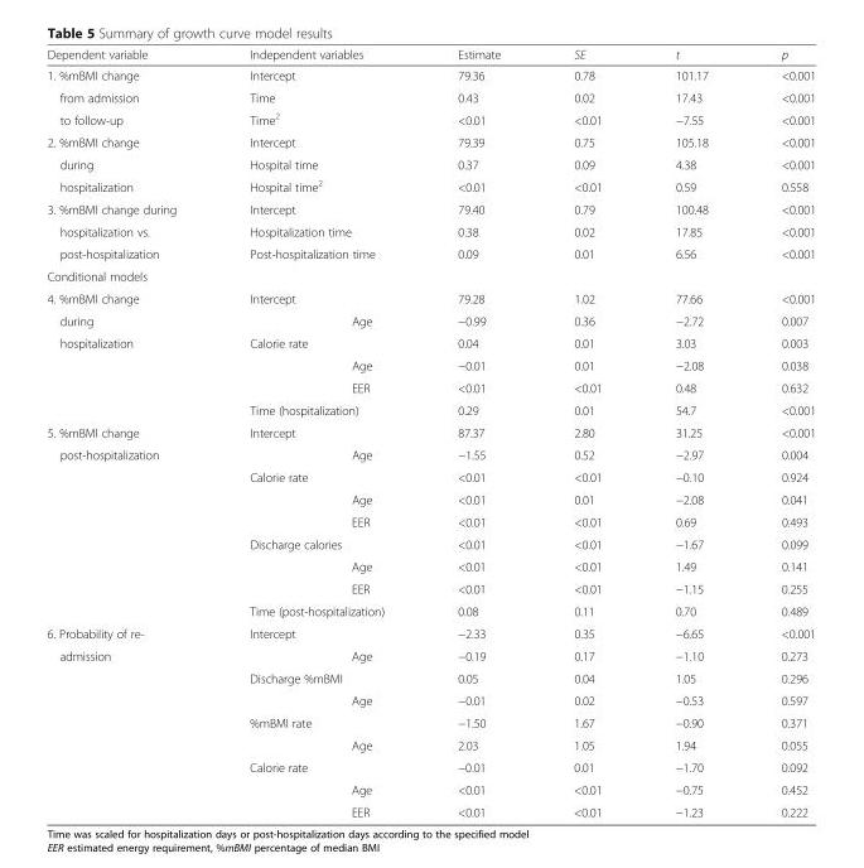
<table><thead><tr><td>Dependent variable</td><td>Independent variables</td><td>Estimate</td><td>SE</td><td>t</td><td>p</td></tr></thead><tbody><tr><td>1. %mBMI change</td><td>Intercept</td><td>79.36</td><td>0.78</td><td>101.17</td><td>&lt;0.001</td></tr><tr><td>from admission</td><td>Time</td><td>0.43</td><td>0.02</td><td>17.43</td><td>&lt;0.001</td></tr><tr><td>to follow-up</td><td>Time<sup>2</sup></td><td>&lt;0.01</td><td>&lt;0.01</td><td>−7.55</td><td>&lt;0.001</td></tr><tr><td>2. %mBMI change</td><td>Intercept</td><td>79.39</td><td>0.75</td><td>105.18</td><td>&lt;0.001</td></tr><tr><td>during</td><td>Hospital time</td><td>0.37</td><td>0.09</td><td>4.38</td><td>&lt;0.001</td></tr><tr><td>hospitalization</td><td>Hospital time<sup>2</sup></td><td>&lt;0.01</td><td>&lt;0.01</td><td>0.59</td><td>0.558</td></tr><tr><td>3. %mBMI change during</td><td>Intercept</td><td>79.40</td><td>0.79</td><td>100.48</td><td>&lt;0.001</td></tr><tr><td>hospitalization vs.</td><td>Hospitalization time</td><td>0.38</td><td>0.02</td><td>17.85</td><td>&lt;0.001</td></tr><tr><td>post-hospitalization</td><td>Post-hospitalization time</td><td>0.09</td><td>0.01</td><td>6.56</td><td>&lt;0.001</td></tr><tr><td colspan="6">Conditional models</td></tr><tr><td>4. %mBMI change</td><td>Intercept</td><td>79.28</td><td>1.02</td><td>77.66</td><td>&lt;0.001</td></tr><tr><td>during</td><td>Age</td><td>−0.99</td><td>0.36</td><td>−2.72</td><td>0.007</td></tr><tr><td rowspan="4">hospitalization</td><td>Calorie rate</td><td>0.04</td><td>0.01</td><td>3.03</td><td>0.003</td></tr><tr><td>Age</td><td>−0.01</td><td>0.01</td><td>−2.08</td><td>0.038</td></tr><tr><td>EER</td><td>&lt;0.01</td><td>&lt;0.01</td><td>0.48</td><td>0.632</td></tr><tr><td>Time (hospitalization)</td><td>0.29</td><td>0.01</td><td>54.7</td><td>&lt;0.001</td></tr><tr><td>5. %mBMI change</td><td>Intercept</td><td>87.37</td><td>2.80</td><td>31.25</td><td>&lt;0.001</td></tr><tr><td rowspan="8">post-hospitalization</td><td>Age</td><td>−1.55</td><td>0.52</td><td>−2.97</td><td>0.004</td></tr><tr><td>Calorie rate</td><td>&lt;0.01</td><td>&lt;0.01</td><td>−0.10</td><td>0.924</td></tr><tr><td>Age</td><td>&lt;0.01</td><td>0.01</td><td>−2.08</td><td>0.041</td></tr><tr><td>EER</td><td>&lt;0.01</td><td>&lt;0.01</td><td>0.69</td><td>0.493</td></tr><tr><td>Discharge calories</td><td>&lt;0.01</td><td>&lt;0.01</td><td>−1.67</td><td>0.099</td></tr><tr><td>Age</td><td>&lt;0.01</td><td>&lt;0.01</td><td>1.49</td><td>0.141</td></tr><tr><td>EER</td><td>&lt;0.01</td><td>&lt;0.01</td><td>−1.15</td><td>0.255</td></tr><tr><td>Time (post-hospitalization)</td><td>0.08</td><td>0.11</td><td>0.70</td><td>0.489</td></tr><tr><td>6. Probability of re-</td><td>Intercept</td><td>−2.33</td><td>0.35</td><td>−6.65</td><td>&lt;0.001</td></tr><tr><td rowspan="8">admission</td><td>Age</td><td>−0.19</td><td>0.17</td><td>−1.10</td><td>0.273</td></tr><tr><td>Discharge %mBMI</td><td>0.05</td><td>0.04</td><td>1.05</td><td>0.296</td></tr><tr><td>Age</td><td>−0.01</td><td>0.02</td><td>−0.53</td><td>0.597</td></tr><tr><td>%mBMI rate</td><td>−1.50</td><td>1.67</td><td>−0.90</td><td>0.371</td></tr><tr><td>Age</td><td>2.03</td><td>1.05</td><td>1.94</td><td>0.055</td></tr><tr><td>Calorie rate</td><td>−0.01</td><td>0.01</td><td>−1.70</td><td>0.092</td></tr><tr><td>Age</td><td>&lt;0.01</td><td>&lt;0.01</td><td>−0.75</td><td>0.452</td></tr><tr><td>EER</td><td>&lt;0.01</td><td>&lt;0.01</td><td>−1.23</td><td>0.222</td></tr></tbody></table>